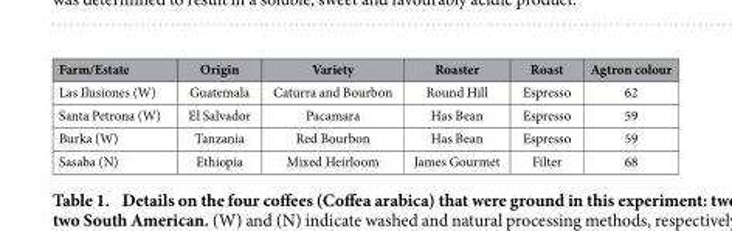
<table><thead><tr><td>Farm/Estate</td><td>Origin</td><td>Variety</td><td>Roaster</td><td>Roast</td><td>Agtron colour</td></tr></thead><tbody><tr><td>Las Ilusiones (W)</td><td>Guatemala</td><td>Caturra and Bourbon</td><td>Round Hill</td><td>Espresso</td><td>62</td></tr><tr><td>Santa Petrona (W)</td><td>El Salvador</td><td>Pacamara</td><td>Has Bean</td><td>Espresso</td><td>59</td></tr><tr><td>Burka (W)</td><td>Tanzania</td><td>Red Bourbon</td><td>Has Bean</td><td>Espresso</td><td>59</td></tr><tr><td>Sasaba (N)</td><td>Ethiopia</td><td>Mixed Heirloom</td><td>James Gourmet</td><td>Filter</td><td>68</td></tr></tbody></table>